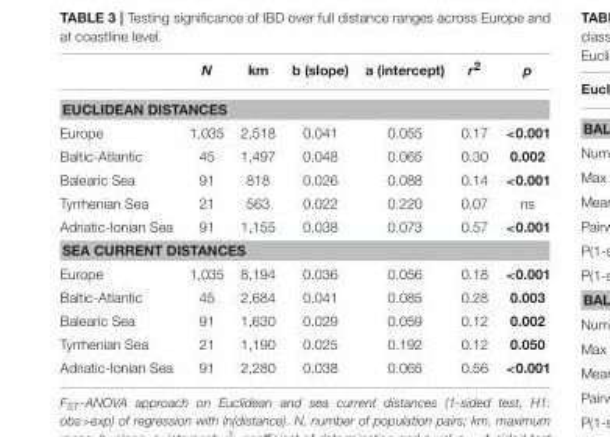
<table><thead><tr><td></td><td>N</td><td>km</td><td>b (slope)</td><td>a (intercept)</td><td>r<sup>2</sup></td><td>p</td></tr></thead><tbody><tr><td colspan="7">EUCLIDEAN DISTANCES</td></tr><tr><td>Europe</td><td>1,035</td><td>2,518</td><td>0.041</td><td>0.055</td><td>0.17</td><td>&lt;0.001</td></tr><tr><td>Baltic-Atlantic</td><td>45</td><td>1,497</td><td>0.048</td><td>0.065</td><td>0.30</td><td>0.002</td></tr><tr><td>Balearic Sea</td><td>91</td><td>818</td><td>0.026</td><td>0.088</td><td>0.14</td><td>&lt;0.001</td></tr><tr><td>Tyrrhenian Sea</td><td>21</td><td>563</td><td>0.022</td><td>0.220</td><td>0.07</td><td>ns</td></tr><tr><td>Adriatic-Ionian Sea</td><td>91</td><td>1,155</td><td>0.038</td><td>0.073</td><td>0.57</td><td>&lt;0.001</td></tr><tr><td colspan="7">SEA CURRENT DISTANCES</td></tr><tr><td>Europe</td><td>1,035</td><td>8,194</td><td>0.036</td><td>0.056</td><td>0.18</td><td>&lt;0.001</td></tr><tr><td>Baltic-Atlantic</td><td>45</td><td>2,684</td><td>0.041</td><td>0.085</td><td>0.28</td><td>0.003</td></tr><tr><td>Balearic Sea</td><td>91</td><td>1,630</td><td>0.029</td><td>0.059</td><td>0.12</td><td>0.002</td></tr><tr><td>Tyrrhenian Sea</td><td>21</td><td>1,190</td><td>0.025</td><td>0.192</td><td>0.12</td><td>0.050</td></tr><tr><td>Adriatic-Ionian Sea</td><td>91</td><td>2,280</td><td>0.038</td><td>0.065</td><td>0.56</td><td>&lt;0.001</td></tr></tbody></table>